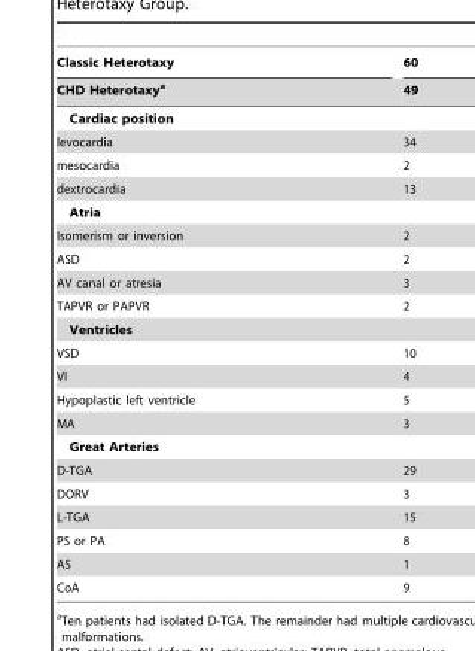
<table><thead><tr><td rowspan="2">Classic Heterotaxy CHD Heterotaxy<sup>a</sup></td><td rowspan="2">60 49</td></tr><tr></tr></thead><tbody><tr><td colspan="2">Cardiac position</td></tr><tr><td>levocardia</td><td>34</td></tr><tr><td>mesocardia</td><td>2</td></tr><tr><td>dextrocardia</td><td>13</td></tr><tr><td colspan="2">Atria</td></tr><tr><td>Isomerism or inversion</td><td>2</td></tr><tr><td>ASD</td><td>2</td></tr><tr><td>AV canal or atresia</td><td>3</td></tr><tr><td>TAPVR or PAPVR</td><td>2</td></tr><tr><td colspan="2">Ventricles</td></tr><tr><td>VSD</td><td>10</td></tr><tr><td>VI</td><td>4</td></tr><tr><td>Hypoplastic left ventricle</td><td>5</td></tr><tr><td>MA</td><td>3</td></tr><tr><td colspan="2">Great Arteries</td></tr><tr><td>D-TGA</td><td>29</td></tr><tr><td>DORV</td><td>3</td></tr><tr><td>L-TGA</td><td>15</td></tr><tr><td>PS or PA</td><td>8</td></tr><tr><td>AS</td><td>1</td></tr><tr><td>CoA</td><td>9</td></tr></tbody></table>